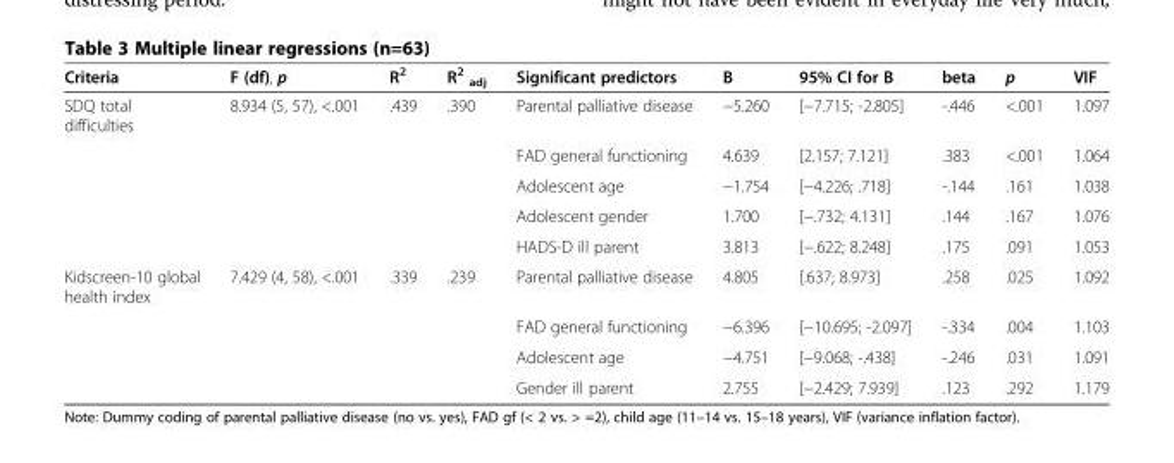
<table><thead><tr><td>Criteria</td><td>F (df), p</td><td>R<sup>2</sup></td><td>R<sup>2</sup> <sub>adj</sub></td><td>Significant predictors</td><td>B</td><td>95% CI for B</td><td>beta</td><td>p</td><td>VIF</td></tr></thead><tbody><tr><td rowspan="5">SDQ total difficulties</td><td>8.934 (5, 57), &lt;.001</td><td>.439</td><td>.390</td><td>Parental palliative disease</td><td>−5.260</td><td>[−7.715; -2.805]</td><td>-.446</td><td>&lt;.001</td><td>1.097</td></tr><tr><td></td><td></td><td></td><td>FAD general functioning</td><td>4.639</td><td>[2.157; 7.121]</td><td>.383</td><td>&lt;.001</td><td>1.064</td></tr><tr><td></td><td></td><td></td><td>Adolescent age</td><td>−1.754</td><td>[−4.226; .718]</td><td>-.144</td><td>.161</td><td>1.038</td></tr><tr><td></td><td></td><td></td><td>Adolescent gender</td><td>1.700</td><td>[−.732; 4.131]</td><td>.144</td><td>.167</td><td>1.076</td></tr><tr><td></td><td></td><td></td><td>HADS-D ill parent</td><td>3.813</td><td>[−.622; 8.248]</td><td>.175</td><td>.091</td><td>1.053</td></tr><tr><td rowspan="4">Kidscreen-10 global health index</td><td>7.429 (4, 58), &lt;.001</td><td>.339</td><td>.239</td><td>Parental palliative disease</td><td>4.805</td><td>[.637; 8.973]</td><td>.258</td><td>.025</td><td>1.092</td></tr><tr><td></td><td></td><td></td><td>FAD general functioning</td><td>−6.396</td><td>[−10.695; -2.097]</td><td>-.334</td><td>.004</td><td>1.103</td></tr><tr><td></td><td></td><td></td><td>Adolescent age</td><td>−4.751</td><td>[−9.068; -.438]</td><td>-.246</td><td>.031</td><td>1.091</td></tr><tr><td></td><td></td><td></td><td>Gender ill parent</td><td>2.755</td><td>[−2.429; 7.939]</td><td>.123</td><td>.292</td><td>1.179</td></tr></tbody></table>